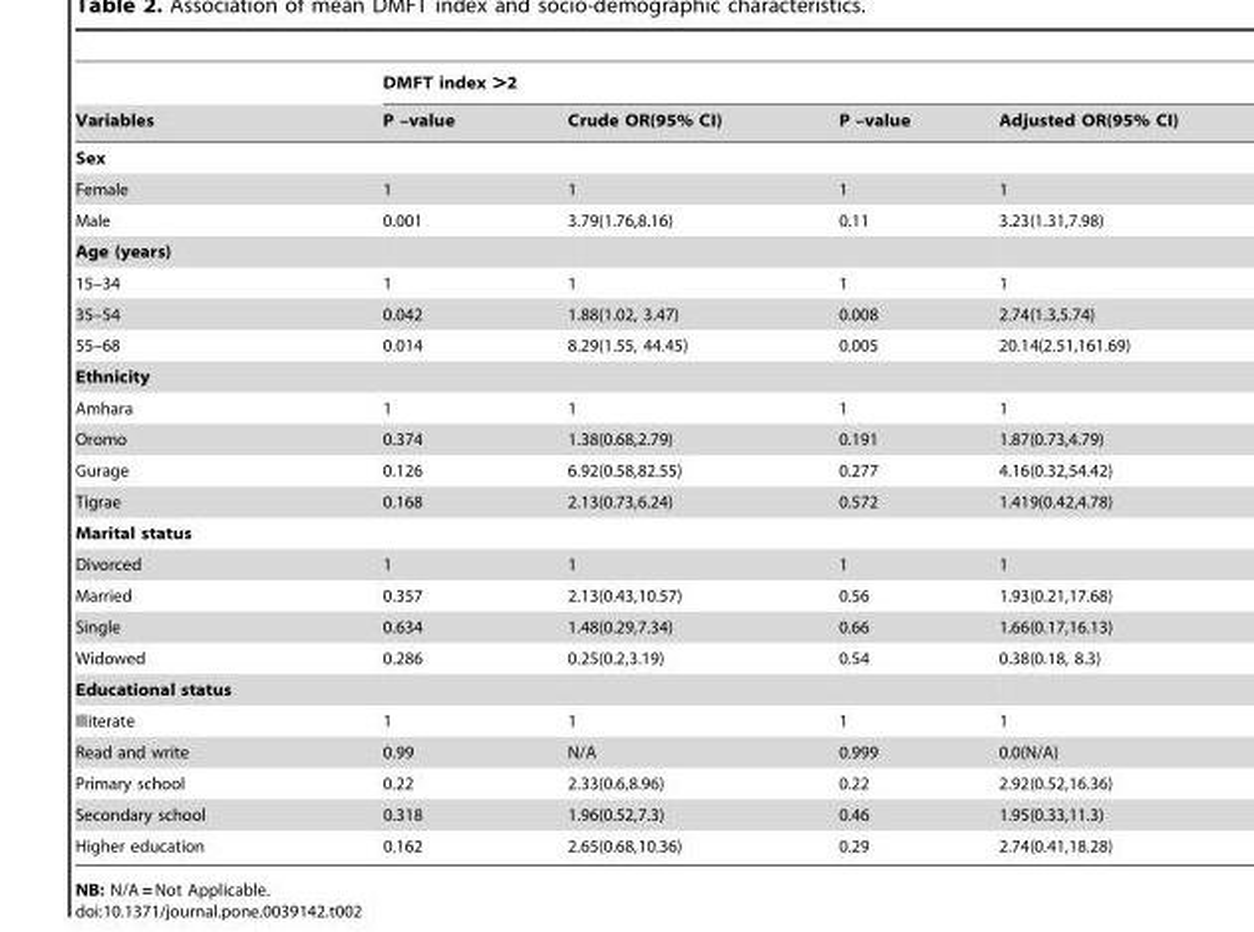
<table><thead><tr><td rowspan="2">Variables</td><td colspan="4">DMFT index &gt;2</td></tr><tr><td>P –value</td><td>Crude OR(95% CI)</td><td>P –value</td><td>Adjusted OR(95% CI)</td></tr></thead><tbody><tr><td colspan="5">Sex</td></tr><tr><td>Female</td><td>1</td><td>1</td><td>1</td><td>1</td></tr><tr><td>Male</td><td>0.001</td><td>3.79(1.76,8.16)</td><td>0.11</td><td>3.23(1.31,7.98)</td></tr><tr><td colspan="5">Age (years)</td></tr><tr><td>15–34</td><td>1</td><td>1</td><td>1</td><td>1</td></tr><tr><td>35–54</td><td>0.042</td><td>1.88(1.02, 3.47)</td><td>0.008</td><td>2.74(1.3,5.74)</td></tr><tr><td>55–68</td><td>0.014</td><td>8.29(1.55, 44.45)</td><td>0.005</td><td>20.14(2.51,161.69)</td></tr><tr><td colspan="5">Ethnicity</td></tr><tr><td>Amhara</td><td>1</td><td>1</td><td>1</td><td>1</td></tr><tr><td>Oromo</td><td>0.374</td><td>1.38(0.68,2.79)</td><td>0.191</td><td>1.87(0.73,4.79)</td></tr><tr><td>Gurage</td><td>0.126</td><td>6.92(0.58,82.55)</td><td>0.277</td><td>4.16(0.32,54.42)</td></tr><tr><td>Tigrae</td><td>0.168</td><td>2.13(0.73,6.24)</td><td>0.572</td><td>1.419(0.42,4.78)</td></tr><tr><td colspan="5">Marital status</td></tr><tr><td>Divorced</td><td>1</td><td>1</td><td>1</td><td>1</td></tr><tr><td>Married</td><td>0.357</td><td>2.13(0.43,10.57)</td><td>0.56</td><td>1.93(0.21,17.68)</td></tr><tr><td>Single</td><td>0.634</td><td>1.48(0.29,7.34)</td><td>0.66</td><td>1.66(0.17,16.13)</td></tr><tr><td>Widowed</td><td>0.286</td><td>0.25(0.2,3.19)</td><td>0.54</td><td>0.38(0.18, 8.3)</td></tr><tr><td colspan="5">Educational status</td></tr><tr><td>Illiterate</td><td>1</td><td>1</td><td>1</td><td>1</td></tr><tr><td>Read and write</td><td>0.99</td><td>N/A</td><td>0.999</td><td>0.0(N/A)</td></tr><tr><td>Primary school</td><td>0.22</td><td>2.33(0.6,8.96)</td><td>0.22</td><td>2.92(0.52,16.36)</td></tr><tr><td>Secondary school</td><td>0.318</td><td>1.96(0.52,7.3)</td><td>0.46</td><td>1.95(0.33,11.3)</td></tr><tr><td>Higher education</td><td>0.162</td><td>2.65(0.68,10.36)</td><td>0.29</td><td>2.74(0.41,18.28)</td></tr></tbody></table>